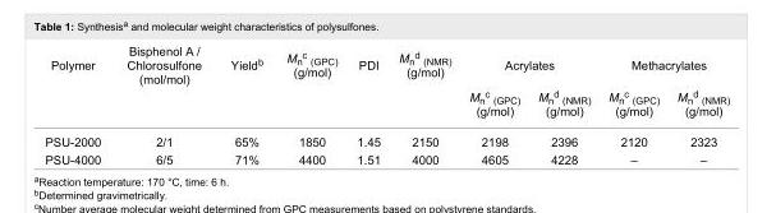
<table><tbody><tr><td rowspan="2">Polymer</td><td>Bisphenol A / Chlorosulfone (mol/mol)</td><td>Yield<sup>b</sup></td><td>M<sub>n</sub><sup>c</sup> <sub>(GPC)</sub> (g/mol)</td><td>PDI</td><td>M<sub>n</sub><sup>d</sup> <sub>(NMR)</sub> (g/mol)</td><td colspan="2">Acrylates</td><td colspan="2">Methacrylates</td></tr><tr><td></td><td></td><td></td><td></td><td></td><td>M<sub>n</sub><sup>c</sup> <sub>(GPC)</sub> (g/mol)</td><td>M<sub>n</sub><sup>d</sup> <sub>(NMR)</sub> (g/mol)</td><td>M<sub>n</sub><sup>c</sup> <sub>(GPC)</sub> (g/mol)</td><td>M<sub>n</sub><sup>d</sup> <sub>(NMR)</sub> (g/mol)</td></tr><tr><td>PSU-2000</td><td>2/1</td><td>65%</td><td>1850</td><td>1.45</td><td>2150</td><td>2198</td><td>2396</td><td>2120</td><td>2323</td></tr><tr><td>PSU-4000</td><td>6/5</td><td>71%</td><td>4400</td><td>1.51</td><td>4000</td><td>4605</td><td>4228</td><td>–</td><td>–</td></tr></tbody></table>